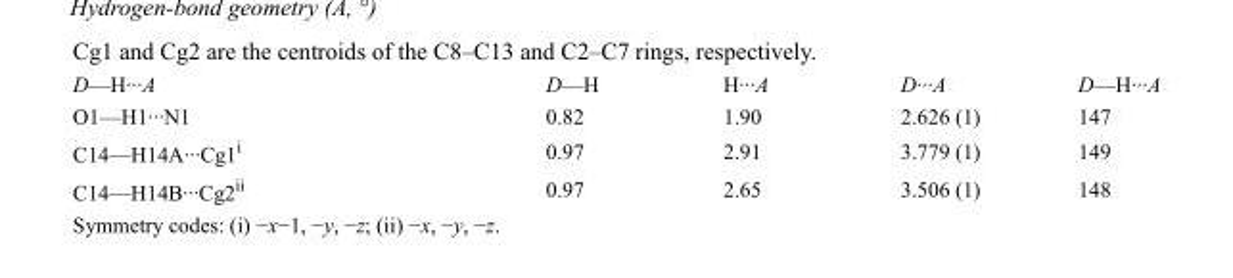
<table><tbody><tr><td>D—H···A</td><td>D—H</td><td>H···A</td><td>D···A</td><td>D—H···A</td></tr><tr><td>O1—H1···N1</td><td>0.82</td><td>1.90</td><td>2.626 (1)</td><td>147</td></tr><tr><td>C14—H14A···Cg1<sup>i</sup></td><td>0.97</td><td>2.91</td><td>3.779 (1)</td><td>149</td></tr><tr><td>C14—H14B···Cg2<sup>ii</sup></td><td>0.97</td><td>2.65</td><td>3.506 (1)</td><td>148</td></tr></tbody></table>